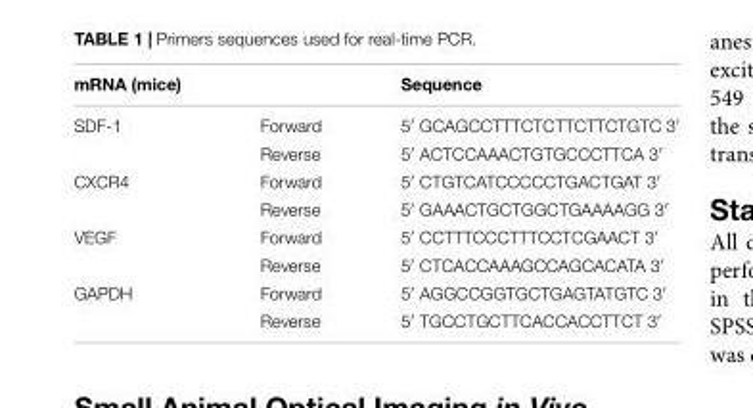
<table><thead><tr><td>mRNA (mice)</td><td></td><td>Sequence</td></tr></thead><tbody><tr><td rowspan="2">SDF-1</td><td>Forward</td><td>5′ GCAGCCTTTCTCTTCTTCTGTC 3′</td></tr><tr><td>Reverse</td><td>5′ ACTCCAAACTGTGCCCTTCA 3′</td></tr><tr><td rowspan="2">CXCR4</td><td>Forward</td><td>5′ CTGTCATCCCCCTGACTGAT 3′</td></tr><tr><td>Reverse</td><td>5′ GAAACTGCTGGCTGAAAAGG 3′</td></tr><tr><td rowspan="2">VEGF</td><td>Forward</td><td>5′ CCTTTCCCTTTCCTCGAACT 3′</td></tr><tr><td>Reverse</td><td>5′ CTCACCAAAGCCAGCACATA 3′</td></tr><tr><td rowspan="2">GAPDH</td><td>Forward</td><td>5′ AGGCCGGTGCTGAGTATGTC 3′</td></tr><tr><td>Reverse</td><td>5′ TGCCTGCTTCACCACCTTCT 3′</td></tr></tbody></table>